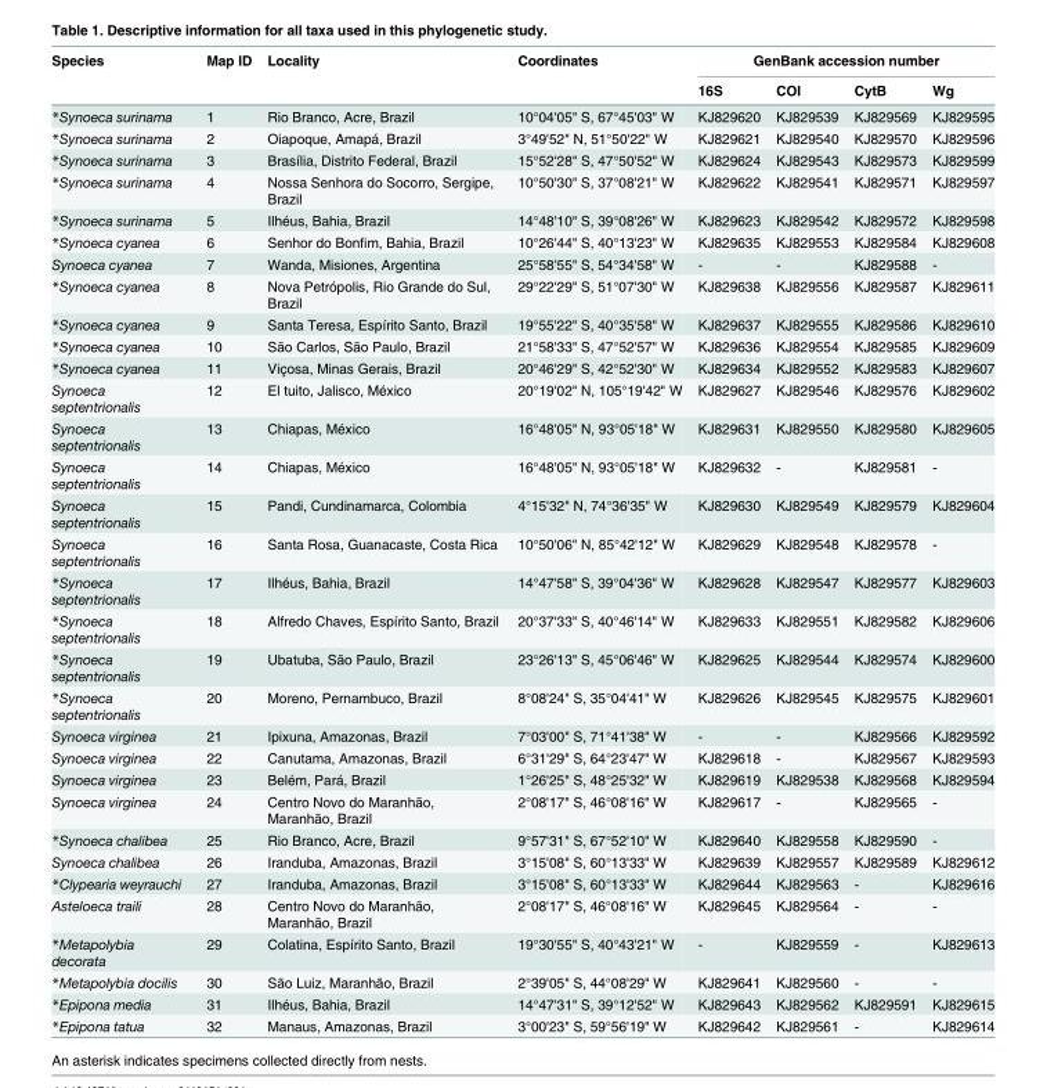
<table><thead><tr><td rowspan="2">Species</td><td rowspan="2">Map ID</td><td rowspan="2">Locality</td><td rowspan="2">Coordinates</td><td colspan="4">GenBank accession number</td></tr><tr><td>16S</td><td>COI</td><td>CytB</td><td>Wg</td></tr></thead><tbody><tr><td>*Synoeca surinama</td><td>1</td><td>Rio Branco, Acre, Brazil</td><td>10°04&#x27;05&quot; S, 67°45&#x27;03&quot; W</td><td>KJ829620</td><td>KJ829539</td><td>KJ829569</td><td>KJ829595</td></tr><tr><td>*Synoeca surinama</td><td>2</td><td>Oiapoque, Amapá, Brazil</td><td>3°49&#x27;52&quot; N, 51°50&#x27;22&quot; W</td><td>KJ829621</td><td>KJ829540</td><td>KJ829570</td><td>KJ829596</td></tr><tr><td>*Synoeca surinama</td><td>3</td><td>Brasília, Distrito Federal, Brazil</td><td>15°52&#x27;28&quot; S, 47°50&#x27;52&quot; W</td><td>KJ829624</td><td>KJ829543</td><td>KJ829573</td><td>KJ829599</td></tr><tr><td>*Synoeca surinama</td><td>4</td><td>Nossa Senhora do Socorro, Sergipe, Brazil</td><td>10°50&#x27;30&quot; S, 37°08&#x27;21&quot; W</td><td>KJ829622</td><td>KJ829541</td><td>KJ829571</td><td>KJ829597</td></tr><tr><td>*Synoeca surinama</td><td>5</td><td>Ilhéus, Bahia, Brazil</td><td>14°48&#x27;10&quot; S, 39°08&#x27;26&quot; W</td><td>KJ829623</td><td>KJ829542</td><td>KJ829572</td><td>KJ829598</td></tr><tr><td>*Synoeca cyanea</td><td>6</td><td>Senhor do Bonfim, Bahia, Brazil</td><td>10°26&#x27;44&quot; S, 40°13&#x27;23&quot; W</td><td>KJ829635</td><td>KJ829553</td><td>KJ829584</td><td>KJ829608</td></tr><tr><td>Synoeca cyanea</td><td>7</td><td>Wanda, Misiones, Argentina</td><td>25°58&#x27;55&quot; S, 54°34&#x27;58&quot; W</td><td>-</td><td>-</td><td>KJ829588</td><td>-</td></tr><tr><td>*Synoeca cyanea</td><td>8</td><td>Nova Petrópolis, Rio Grande do Sul, Brazil</td><td>29°22&#x27;29&quot; S, 51°07&#x27;30&quot; W</td><td>KJ829638</td><td>KJ829556</td><td>KJ829587</td><td>KJ829611</td></tr><tr><td>*Synoeca cyanea</td><td>9</td><td>Santa Teresa, Espírito Santo, Brazil</td><td>19°55&#x27;22&quot; S, 40°35&#x27;58&quot; W</td><td>KJ829637</td><td>KJ829555</td><td>KJ829586</td><td>KJ829610</td></tr><tr><td>*Synoeca cyanea</td><td>10</td><td>São Carlos, São Paulo, Brazil</td><td>21°58&#x27;33&quot; S, 47°52&#x27;57&quot; W</td><td>KJ829636</td><td>KJ829554</td><td>KJ829585</td><td>KJ829609</td></tr><tr><td>*Synoeca cyanea</td><td>11</td><td>Viçosa, Minas Gerais, Brazil</td><td>20°46&#x27;29&quot; S, 42°52&#x27;30&quot; W</td><td>KJ829634</td><td>KJ829552</td><td>KJ829583</td><td>KJ829607</td></tr><tr><td>Synoeca septentrionalis</td><td>12</td><td>El tuito, Jalisco, México</td><td>20°19&#x27;02&quot; N, 105°19&#x27;42&quot; W</td><td>KJ829627</td><td>KJ829546</td><td>KJ829576</td><td>KJ829602</td></tr><tr><td>Synoeca septentrionalis</td><td>13</td><td>Chiapas, México</td><td>16°48&#x27;05&quot; N, 93°05&#x27;18&quot; W</td><td>KJ829631</td><td>KJ829550</td><td>KJ829580</td><td>KJ829605</td></tr><tr><td>Synoeca septentrionalis</td><td>14</td><td>Chiapas, México</td><td>16°48&#x27;05&quot; N, 93°05&#x27;18&quot; W</td><td>KJ829632</td><td>-</td><td>KJ829581</td><td>-</td></tr><tr><td>Synoeca septentrionalis</td><td>15</td><td>Pandi, Cundinamarca, Colombia</td><td>4°15&#x27;32&quot; N, 74°36&#x27;35&quot; W</td><td>KJ829630</td><td>KJ829549</td><td>KJ829579</td><td>KJ829604</td></tr><tr><td>Synoeca septentrionalis</td><td>16</td><td>Santa Rosa, Guanacaste, Costa Rica</td><td>10°50&#x27;06&quot; N, 85°42&#x27;12&quot; W</td><td>KJ829629</td><td>KJ829548</td><td>KJ829578</td><td>-</td></tr><tr><td>*Synoeca septentrionalis</td><td>17</td><td>Ilhéus, Bahia, Brazil</td><td>14°47&#x27;58&quot; S, 39°04&#x27;36&quot; W</td><td>KJ829628</td><td>KJ829547</td><td>KJ829577</td><td>KJ829603</td></tr><tr><td>*Synoeca septentrionalis</td><td>18</td><td>Alfredo Chaves, Espírito Santo, Brazil</td><td>20°37&#x27;33&quot; S, 40°46&#x27;14&quot; W</td><td>KJ829633</td><td>KJ829551</td><td>KJ829582</td><td>KJ829606</td></tr><tr><td>*Synoeca septentrionalis</td><td>19</td><td>Ubatuba, São Paulo, Brazil</td><td>23°26&#x27;13&quot; S, 45°06&#x27;46&quot; W</td><td>KJ829625</td><td>KJ829544</td><td>KJ829574</td><td>KJ829600</td></tr><tr><td>*Synoeca septentrionalis</td><td>20</td><td>Moreno, Pernambuco, Brazil</td><td>8°08&#x27;24&quot; S, 35°04&#x27;41&quot; W</td><td>KJ829626</td><td>KJ829545</td><td>KJ829575</td><td>KJ829601</td></tr><tr><td>Synoeca virginea</td><td>21</td><td>Ipixuna, Amazonas, Brazil</td><td>7°03&#x27;00&quot; S, 71°41&#x27;38&quot; W</td><td>-</td><td>-</td><td>KJ829566</td><td>KJ829592</td></tr><tr><td>Synoeca virginea</td><td>22</td><td>Canutama, Amazonas, Brazil</td><td>6°31&#x27;29&quot; S, 64°23&#x27;47&quot; W</td><td>KJ829618</td><td>-</td><td>KJ829567</td><td>KJ829593</td></tr><tr><td>Synoeca virginea</td><td>23</td><td>Belém, Pará, Brazil</td><td>1°26&#x27;25&quot; S, 48°25&#x27;32&quot; W</td><td>KJ829619</td><td>KJ829538</td><td>KJ829568</td><td>KJ829594</td></tr><tr><td>Synoeca virginea</td><td>24</td><td>Centro Novo do Maranhão, Maranhão, Brazil</td><td>2°08&#x27;17&quot; S, 46°08&#x27;16&quot; W</td><td>KJ829617</td><td>-</td><td>KJ829565</td><td>-</td></tr><tr><td>*Synoeca chalibea</td><td>25</td><td>Rio Branco, Acre, Brazil</td><td>9°57&#x27;31&quot; S, 67°52&#x27;10&quot; W</td><td>KJ829640</td><td>KJ829558</td><td>KJ829590</td><td>-</td></tr><tr><td>Synoeca chalibea</td><td>26</td><td>Iranduba, Amazonas, Brazil</td><td>3°15&#x27;08&quot; S, 60°13&#x27;33&quot; W</td><td>KJ829639</td><td>KJ829557</td><td>KJ829589</td><td>KJ829612</td></tr><tr><td>*Clypearia weyrauchi</td><td>27</td><td>Iranduba, Amazonas, Brazil</td><td>3°15&#x27;08&quot; S, 60°13&#x27;33&quot; W</td><td>KJ829644</td><td>KJ829563</td><td>-</td><td>KJ829616</td></tr><tr><td>Asteloeca traili</td><td>28</td><td>Centro Novo do Maranhão, Maranhão, Brazil</td><td>2°08&#x27;17&quot; S, 46°08&#x27;16&quot; W</td><td>KJ829645</td><td>KJ829564</td><td>-</td><td>-</td></tr><tr><td>*Metapolybia decorata</td><td>29</td><td>Colatina, Espírito Santo, Brazil</td><td>19°30&#x27;55&quot; S, 40°43&#x27;21&quot; W</td><td>-</td><td>KJ829559</td><td>-</td><td>KJ829613</td></tr><tr><td>*Metapolybia docilis</td><td>30</td><td>São Luiz, Maranhão, Brazil</td><td>2°39&#x27;05&quot; S, 44°08&#x27;29&quot; W</td><td>KJ829641</td><td>KJ829560</td><td>-</td><td>-</td></tr><tr><td>*Epipona media</td><td>31</td><td>Ilhéus, Bahia, Brazil</td><td>14°47&#x27;31&quot; S, 39°12&#x27;52&quot; W</td><td>KJ829643</td><td>KJ829562</td><td>KJ829591</td><td>KJ829615</td></tr><tr><td>*Epipona tatua</td><td>32</td><td>Manaus, Amazonas, Brazil</td><td>3°00&#x27;23&quot; S, 59°56&#x27;19&quot; W</td><td>KJ829642</td><td>KJ829561</td><td>-</td><td>KJ829614</td></tr></tbody></table>